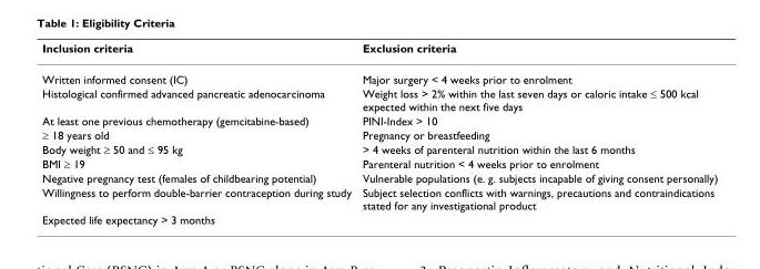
<table><thead><tr><td>Inclusion criteria</td><td>Exclusion criteria</td></tr></thead><tbody><tr><td>Written informed consent (IC)</td><td>Major surgery &lt; 4 weeks prior to enrolment</td></tr><tr><td>Histological confirmed advanced pancreatic adenocarcinoma</td><td>Weight loss &gt; 2% within the last seven days or caloric intake ≤ 500 kcal expected within the next five days</td></tr><tr><td>At least one previous chemotherapy (gemcitabine-based)</td><td>PINI-Index &gt; 10</td></tr><tr><td>≥ 18 years old</td><td>Pregnancy or breastfeeding</td></tr><tr><td>Body weight ≥ 50 and ≤ 95 kg</td><td>&gt; 4 weeks of parenteral nutrition within the last 6 months</td></tr><tr><td>BMI ≥ 19</td><td>Parenteral nutrition &lt; 4 weeks prior to enrolment</td></tr><tr><td>Negative pregnancy test (females of childbearing potential)</td><td>Vulnerable populations (e. g. subjects incapable of giving consent personally)</td></tr><tr><td>Willingness to perform double-barrier contraception during study</td><td>Subject selection conflicts with warnings, precautions and contraindications stated for any investigational product</td></tr><tr><td>Expected life expectancy &gt; 3 months</td><td></td></tr></tbody></table>